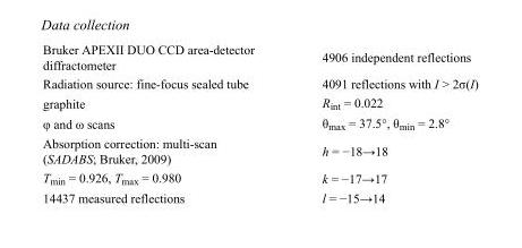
<table><tbody><tr><td>Bruker APEXII DUO CCD area-detector diffractometer</td><td>4906 independent reflections</td></tr><tr><td>Radiation source: fine-focus sealed tube</td><td>4091 reflections with I &gt; 2σ(I)</td></tr><tr><td>graphite</td><td>R<sub>int</sub> = 0.022</td></tr><tr><td>φ and ω scans</td><td>θ<sub>max</sub> = 37.5°, θ<sub>min</sub> = 2.8°</td></tr><tr><td>Absorption correction: multi-scan (SADABS; Bruker, 2009)</td><td>h = −18→18</td></tr><tr><td>T<sub>min</sub> = 0.926, T<sub>max</sub> = 0.980</td><td>k = −17→17</td></tr><tr><td>14437 measured reflections</td><td>l = −15→14</td></tr></tbody></table>